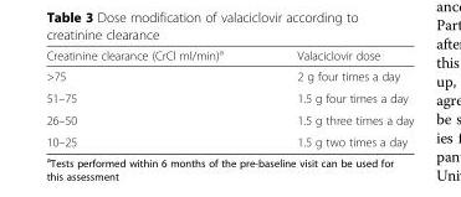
<table><thead><tr><td>Creatinine clearance (CrCl ml/min)<sup>a</sup></td><td>Valaciclovir dose</td></tr></thead><tbody><tr><td>&gt;75</td><td>2 g four times a day</td></tr><tr><td>51–75</td><td>1.5 g four times a day</td></tr><tr><td>26–50</td><td>1.5 g three times a day</td></tr><tr><td>10–25</td><td>1.5 g two times a day</td></tr></tbody></table>